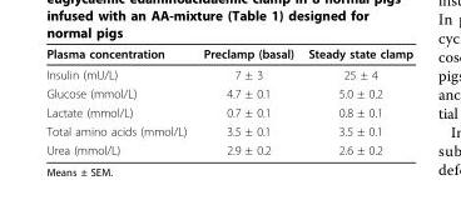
<table><thead><tr><td>Plasma concentration</td><td>Preclamp (basal)</td><td>Steady state clamp</td></tr></thead><tbody><tr><td>Insulin (mU/L)</td><td>7 ± 3</td><td>25 ± 4</td></tr><tr><td>Glucose (mmol/L)</td><td>4.7 ± 0.1</td><td>5.0 ± 0.2</td></tr><tr><td>Lactate (mmol/L)</td><td>0.7 ± 0.1</td><td>0.8 ± 0.1</td></tr><tr><td>Total amino acids (mmol/L)</td><td>3.5 ± 0.1</td><td>3.5 ± 0.1</td></tr><tr><td>Urea (mmol/L)</td><td>2.9 ± 0.2</td><td>2.6 ± 0.2</td></tr></tbody></table>